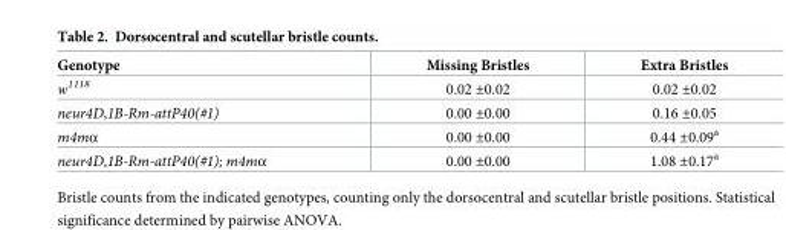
<table><thead><tr><td>Genotype</td><td>Missing Bristles</td><td>Extra Bristles</td></tr></thead><tbody><tr><td>w<sup>1118</sup></td><td>0.02 ±0.02</td><td>0.02 ±0.02</td></tr><tr><td>neur4D,1B-Rm-attP40(#1)</td><td>0.00 ±0.00</td><td>0.16 ±0.05</td></tr><tr><td>m4mα</td><td>0.00 ±0.00</td><td>0.44 ±0.09<sup>a</sup></td></tr><tr><td>neur4D,1B-Rm-attP40(#1); m4mα</td><td>0.00 ±0.00</td><td>1.08 ±0.17<sup>a</sup></td></tr></tbody></table>